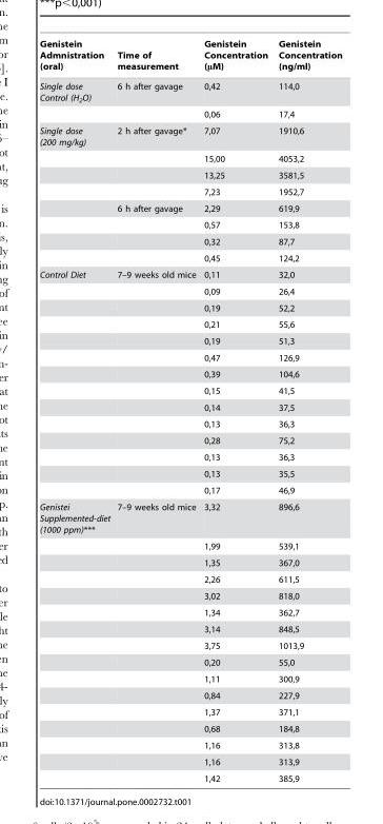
<table><thead><tr><td>Genistein Admnistration (oral)</td><td>Time of measurement</td><td>Genistein Concentration (μM)</td><td>Genistein Concentration (ng/ml)</td></tr></thead><tbody><tr><td rowspan="2">Single dose Control (H<sub>2</sub>O)</td><td>6 h after gavage</td><td>0,42</td><td>114,0</td></tr><tr><td></td><td>0,06</td><td>17,4</td></tr><tr><td rowspan="8">Single dose (200 mg/kg)</td><td>2 h after gavage*</td><td>7,07</td><td>1910,6</td></tr><tr><td></td><td>15,00</td><td>4053,2</td></tr><tr><td></td><td>13,25</td><td>3581,5</td></tr><tr><td></td><td>7,23</td><td>1952,7</td></tr><tr><td>6 h after gavage</td><td>2,29</td><td>619,9</td></tr><tr><td></td><td>0,57</td><td>153,8</td></tr><tr><td></td><td>0,32</td><td>87,7</td></tr><tr><td></td><td>0,45</td><td>124,2</td></tr><tr><td rowspan="14">Control Diet</td><td>7–9 weeks old mice</td><td>0,11</td><td>32,0</td></tr><tr><td></td><td>0,09</td><td>26,4</td></tr><tr><td></td><td>0,19</td><td>52,2</td></tr><tr><td></td><td>0,21</td><td>55,6</td></tr><tr><td></td><td>0,19</td><td>51,3</td></tr><tr><td></td><td>0,47</td><td>126,9</td></tr><tr><td></td><td>0,39</td><td>104,6</td></tr><tr><td></td><td>0,15</td><td>41,5</td></tr><tr><td></td><td>0,14</td><td>37,5</td></tr><tr><td></td><td>0,13</td><td>36,3</td></tr><tr><td></td><td>0,28</td><td>75,2</td></tr><tr><td></td><td>0,13</td><td>36,3</td></tr><tr><td></td><td>0,13</td><td>35,5</td></tr><tr><td></td><td>0,17</td><td>46,9</td></tr><tr><td rowspan="16">Genistei Supplemented-diet (1000 ppm)***</td><td>7–9 weeks old mice</td><td>3,32</td><td>896,6</td></tr><tr><td></td><td>1,99</td><td>539,1</td></tr><tr><td></td><td>1,35</td><td>367,0</td></tr><tr><td></td><td>2,26</td><td>611,5</td></tr><tr><td></td><td>3,02</td><td>818,0</td></tr><tr><td></td><td>1,34</td><td>362,7</td></tr><tr><td></td><td>3,14</td><td>848,5</td></tr><tr><td></td><td>3,75</td><td>1013,9</td></tr><tr><td></td><td>0,20</td><td>55,0</td></tr><tr><td></td><td>1,11</td><td>300,9</td></tr><tr><td></td><td>0,84</td><td>227,9</td></tr><tr><td></td><td>1,37</td><td>371,1</td></tr><tr><td></td><td>0,68</td><td>184,8</td></tr><tr><td></td><td>1,16</td><td>313,8</td></tr><tr><td></td><td>1,16</td><td>313,9</td></tr><tr><td></td><td>1,42</td><td>385,9</td></tr></tbody></table>